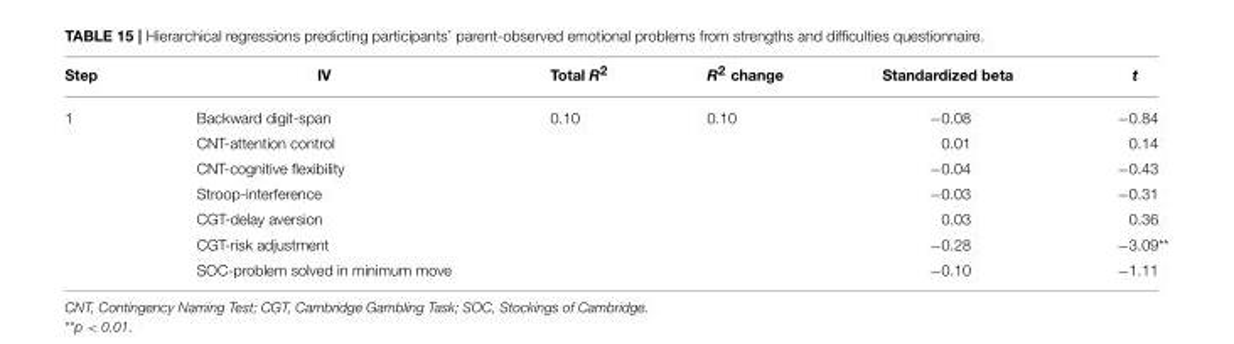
<table><thead><tr><td>Step</td><td>IV</td><td>Total R<sup>2</sup></td><td>R<sup>2</sup> change</td><td>Standardized beta</td><td>t</td></tr></thead><tbody><tr><td rowspan="7">1</td><td>Backward digit-span</td><td>0.10</td><td>0.10</td><td>−0.08</td><td>−0.84</td></tr><tr><td>CNT-attention control</td><td></td><td></td><td>0.01</td><td>0.14</td></tr><tr><td>CNT-cognitive flexibility</td><td></td><td></td><td>−0.04</td><td>−0.43</td></tr><tr><td>Stroop-interference</td><td></td><td></td><td>−0.03</td><td>−0.31</td></tr><tr><td>CGT-delay aversion</td><td></td><td></td><td>0.03</td><td>0.36</td></tr><tr><td>CGT-risk adjustment</td><td></td><td></td><td>−0.28</td><td>−3.09**</td></tr><tr><td>SOC-problem solved in minimum move</td><td></td><td></td><td>−0.10</td><td>−1.11</td></tr></tbody></table>